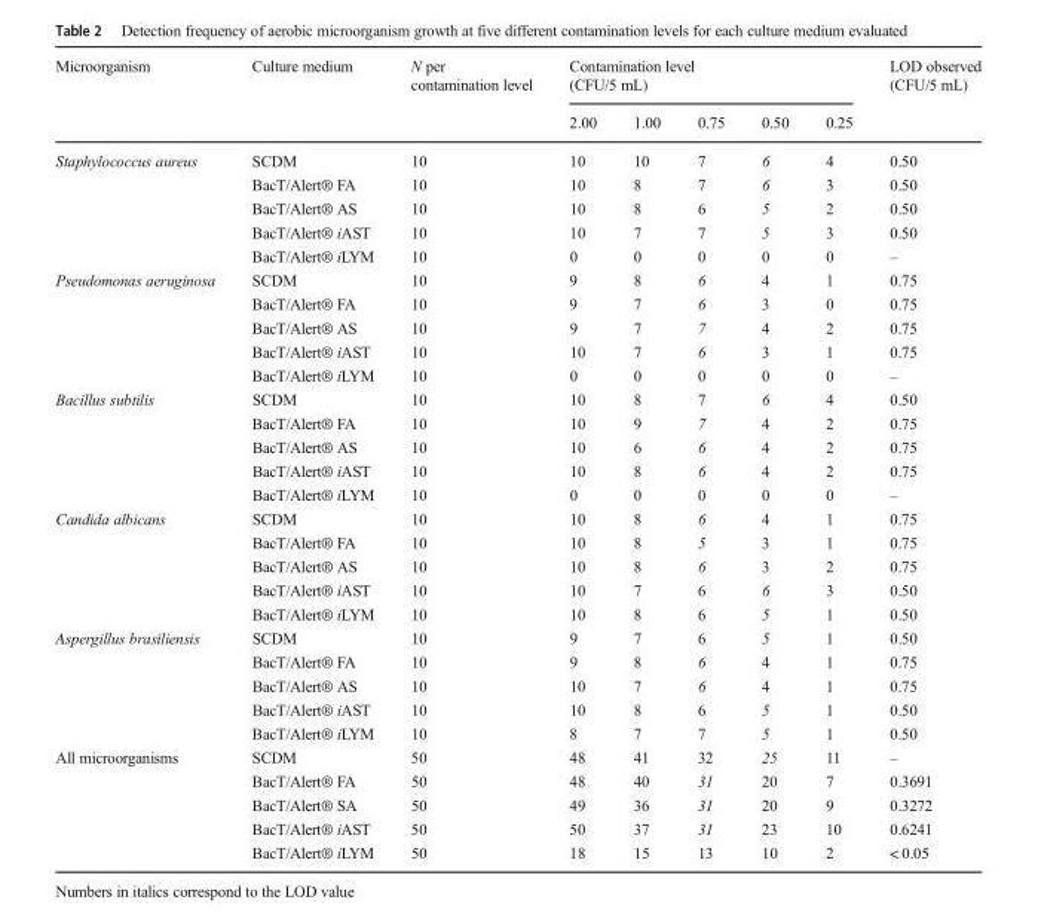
<table><thead><tr><td rowspan="2">Microorganism</td><td rowspan="2">Culture medium</td><td rowspan="2">N per contamination level</td><td colspan="5">Contamination level (CFU/5 mL)</td><td rowspan="2">LOD observed (CFU/5 mL)</td></tr><tr><td>2.00</td><td>1.00</td><td>0.75</td><td>0.50</td><td>0.25</td></tr></thead><tbody><tr><td rowspan="5">Staphylococcus aureus</td><td>SCDM</td><td>10</td><td>10</td><td>10</td><td>7</td><td>6</td><td>4</td><td>0.50</td></tr><tr><td>BacT/Alert® FA</td><td>10</td><td>10</td><td>8</td><td>7</td><td>6</td><td>3</td><td>0.50</td></tr><tr><td>BacT/Alert® AS</td><td>10</td><td>10</td><td>8</td><td>6</td><td>5</td><td>2</td><td>0.50</td></tr><tr><td>BacT/Alert® iAST</td><td>10</td><td>10</td><td>7</td><td>7</td><td>5</td><td>3</td><td>0.50</td></tr><tr><td>BacT/Alert® iLYM</td><td>10</td><td>0</td><td>0</td><td>0</td><td>0</td><td>0</td><td>–</td></tr><tr><td rowspan="5">Pseudomonas aeruginosa</td><td>SCDM</td><td>10</td><td>9</td><td>8</td><td>6</td><td>4</td><td>1</td><td>0.75</td></tr><tr><td>BacT/Alert® FA</td><td>10</td><td>9</td><td>7</td><td>6</td><td>3</td><td>0</td><td>0.75</td></tr><tr><td>BacT/Alert® AS</td><td>10</td><td>9</td><td>7</td><td>7</td><td>4</td><td>2</td><td>0.75</td></tr><tr><td>BacT/Alert® iAST</td><td>10</td><td>10</td><td>7</td><td>6</td><td>3</td><td>1</td><td>0.75</td></tr><tr><td>BacT/Alert® iLYM</td><td>10</td><td>0</td><td>0</td><td>0</td><td>0</td><td>0</td><td>–</td></tr><tr><td rowspan="5">Bacillus subtilis</td><td>SCDM</td><td>10</td><td>10</td><td>8</td><td>7</td><td>6</td><td>4</td><td>0.50</td></tr><tr><td>BacT/Alert® FA</td><td>10</td><td>10</td><td>9</td><td>7</td><td>4</td><td>2</td><td>0.75</td></tr><tr><td>BacT/Alert® AS</td><td>10</td><td>10</td><td>6</td><td>6</td><td>4</td><td>2</td><td>0.75</td></tr><tr><td>BacT/Alert® iAST</td><td>10</td><td>10</td><td>8</td><td>6</td><td>4</td><td>2</td><td>0.75</td></tr><tr><td>BacT/Alert® iLYM</td><td>10</td><td>0</td><td>0</td><td>0</td><td>0</td><td>0</td><td>–</td></tr><tr><td rowspan="5">Candida albicans</td><td>SCDM</td><td>10</td><td>10</td><td>8</td><td>6</td><td>4</td><td>1</td><td>0.75</td></tr><tr><td>BacT/Alert® FA</td><td>10</td><td>10</td><td>8</td><td>5</td><td>3</td><td>1</td><td>0.75</td></tr><tr><td>BacT/Alert® AS</td><td>10</td><td>10</td><td>8</td><td>6</td><td>3</td><td>2</td><td>0.75</td></tr><tr><td>BacT/Alert® iAST</td><td>10</td><td>10</td><td>7</td><td>6</td><td>6</td><td>3</td><td>0.50</td></tr><tr><td>BacT/Alert® iLYM</td><td>10</td><td>10</td><td>8</td><td>6</td><td>5</td><td>1</td><td>0.50</td></tr><tr><td rowspan="5">Aspergillus brasiliensis</td><td>SCDM</td><td>10</td><td>9</td><td>7</td><td>6</td><td>5</td><td>1</td><td>0.50</td></tr><tr><td>BacT/Alert® FA</td><td>10</td><td>9</td><td>8</td><td>6</td><td>4</td><td>1</td><td>0.75</td></tr><tr><td>BacT/Alert® AS</td><td>10</td><td>10</td><td>7</td><td>6</td><td>4</td><td>1</td><td>0.75</td></tr><tr><td>BacT/Alert® iAST</td><td>10</td><td>10</td><td>8</td><td>6</td><td>5</td><td>1</td><td>0.50</td></tr><tr><td>BacT/Alert® iLYM</td><td>10</td><td>8</td><td>7</td><td>7</td><td>5</td><td>1</td><td>0.50</td></tr><tr><td rowspan="5">All microorganisms</td><td>SCDM</td><td>50</td><td>48</td><td>41</td><td>32</td><td>25</td><td>11</td><td>–</td></tr><tr><td>BacT/Alert® FA</td><td>50</td><td>48</td><td>40</td><td>31</td><td>20</td><td>7</td><td>0.3691</td></tr><tr><td>BacT/Alert® SA</td><td>50</td><td>49</td><td>36</td><td>31</td><td>20</td><td>9</td><td>0.3272</td></tr><tr><td>BacT/Alert® iAST</td><td>50</td><td>50</td><td>37</td><td>31</td><td>23</td><td>10</td><td>0.6241</td></tr><tr><td>BacT/Alert® iLYM</td><td>50</td><td>18</td><td>15</td><td>13</td><td>10</td><td>2</td><td>&lt; 0.05</td></tr></tbody></table>